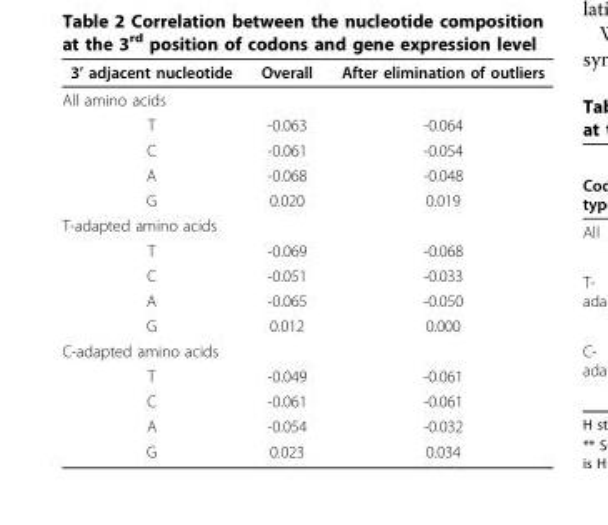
<table><thead><tr><td>3’ adjacent nucleotide</td><td>Overall</td><td>After elimination of outliers</td></tr></thead><tbody><tr><td colspan="3">All amino acids</td></tr><tr><td>T</td><td>-0.063</td><td>-0.064</td></tr><tr><td>C</td><td>-0.061</td><td>-0.054</td></tr><tr><td>A</td><td>-0.068</td><td>-0.048</td></tr><tr><td>G</td><td>0.020</td><td>0.019</td></tr><tr><td colspan="3">T-adapted amino acids</td></tr><tr><td>T</td><td>-0.069</td><td>-0.068</td></tr><tr><td>C</td><td>-0.051</td><td>-0.033</td></tr><tr><td>A</td><td>-0.065</td><td>-0.050</td></tr><tr><td>G</td><td>0.012</td><td>0.000</td></tr><tr><td colspan="3">C-adapted amino acids</td></tr><tr><td>T</td><td>-0.049</td><td>-0.061</td></tr><tr><td>C</td><td>-0.061</td><td>-0.061</td></tr><tr><td>A</td><td>-0.054</td><td>-0.032</td></tr><tr><td>G</td><td>0.023</td><td>0.034</td></tr></tbody></table>